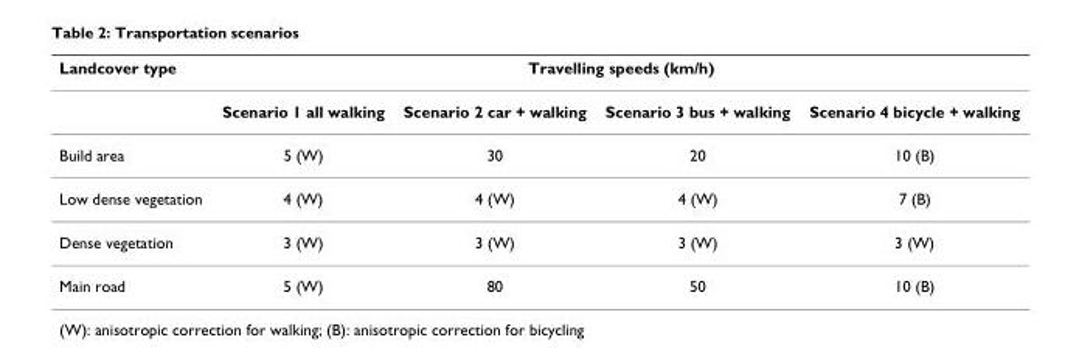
<table><thead><tr><td rowspan="2">Landcover type</td><td colspan="4">Travelling speeds (km/h)</td></tr><tr><td>Scenario 1 all walking</td><td>Scenario 2 car + walking</td><td>Scenario 3 bus + walking</td><td>Scenario 4 bicycle + walking</td></tr></thead><tbody><tr><td>Build area</td><td>5 (W)</td><td>30</td><td>20</td><td>10 (B)</td></tr><tr><td>Low dense vegetation</td><td>4 (W)</td><td>4 (W)</td><td>4 (W)</td><td>7 (B)</td></tr><tr><td>Dense vegetation</td><td>3 (W)</td><td>3 (W)</td><td>3 (W)</td><td>3 (W)</td></tr><tr><td>Main road</td><td>5 (W)</td><td>80</td><td>50</td><td>10 (B)</td></tr></tbody></table>